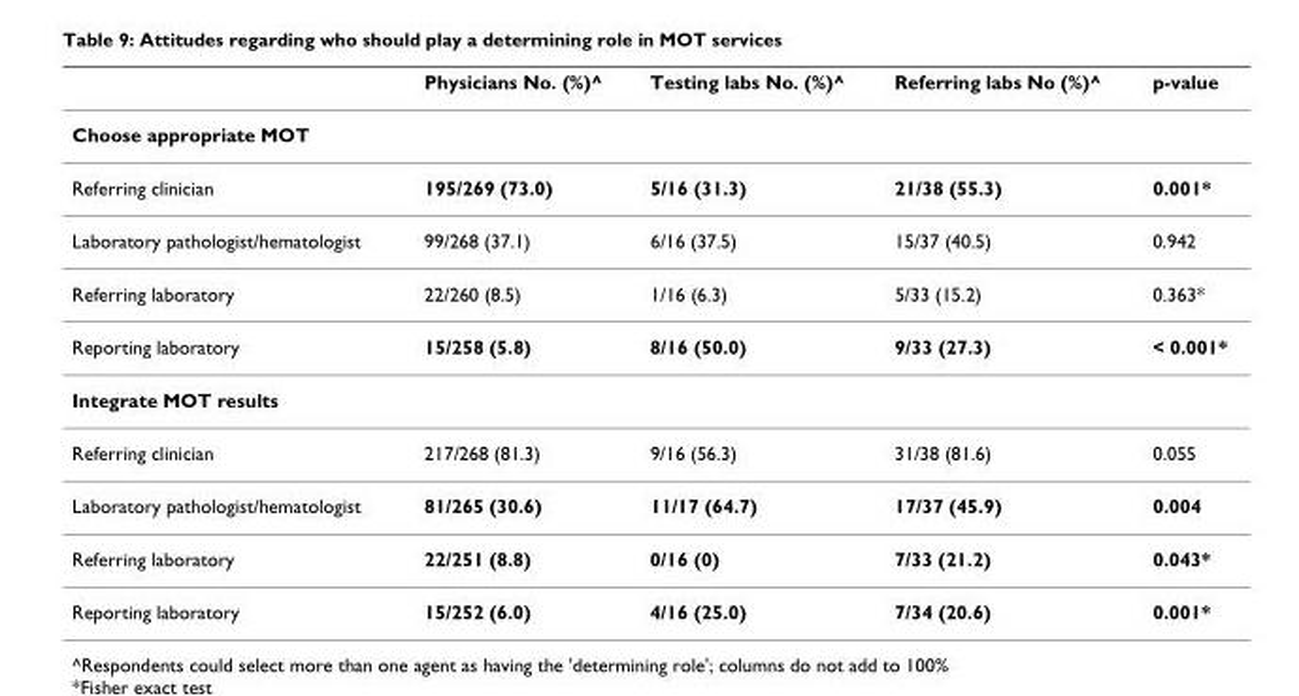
<table><thead><tr><td></td><td>Physicians No. (%)^</td><td>Testing labs No. (%)^</td><td>Referring labs No (%)^</td><td>p-value</td></tr></thead><tbody><tr><td colspan="5">Choose appropriate MOT</td></tr><tr><td>Referring clinician</td><td>195/269 (73.0)</td><td>5/16 (31.3)</td><td>21/38 (55.3)</td><td>0.001*</td></tr><tr><td>Laboratory pathologist/hematologist</td><td>99/268 (37.1)</td><td>6/16 (37.5)</td><td>15/37 (40.5)</td><td>0.942</td></tr><tr><td>Referring laboratory</td><td>22/260 (8.5)</td><td>1/16 (6.3)</td><td>5/33 (15.2)</td><td>0.363*</td></tr><tr><td>Reporting laboratory</td><td>15/258 (5.8)</td><td>8/16 (50.0)</td><td>9/33 (27.3)</td><td>&lt; 0.001*</td></tr><tr><td colspan="5">Integrate MOT results</td></tr><tr><td>Referring clinician</td><td>217/268 (81.3)</td><td>9/16 (56.3)</td><td>31/38 (81.6)</td><td>0.055</td></tr><tr><td>Laboratory pathologist/hematologist</td><td>81/265 (30.6)</td><td>11/17 (64.7)</td><td>17/37 (45.9)</td><td>0.004</td></tr><tr><td>Referring laboratory</td><td>22/251 (8.8)</td><td>0/16 (0)</td><td>7/33 (21.2)</td><td>0.043*</td></tr><tr><td>Reporting laboratory</td><td>15/252 (6.0)</td><td>4/16 (25.0)</td><td>7/34 (20.6)</td><td>0.001*</td></tr></tbody></table>